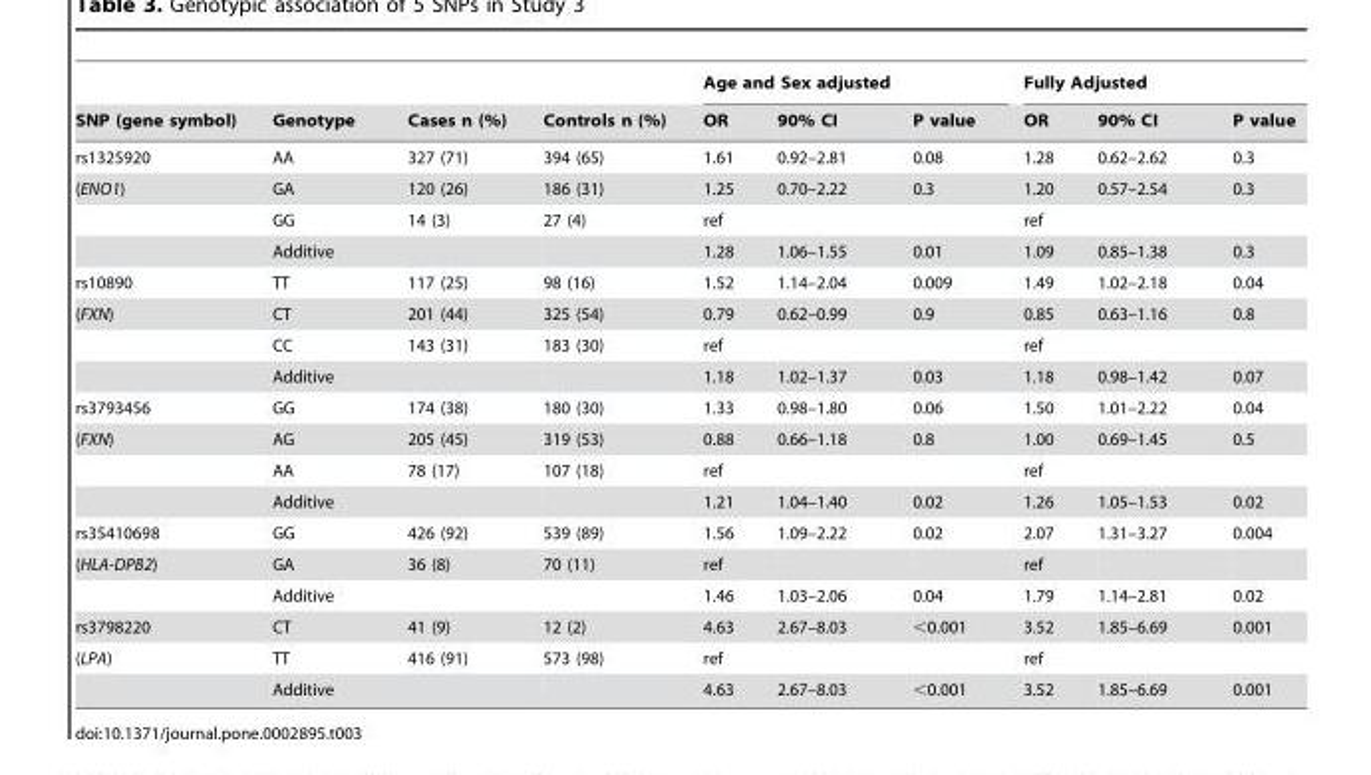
<table><thead><tr><td rowspan="2">SNP (gene symbol)</td><td rowspan="2">Genotype</td><td rowspan="2">Cases n (%)</td><td rowspan="2">Controls n (%)</td><td colspan="3">Age and Sex adjusted</td><td colspan="3">Fully Adjusted</td></tr><tr><td>OR</td><td>90% CI</td><td>P value</td><td>OR</td><td>90% CI</td><td>P value</td></tr></thead><tbody><tr><td>rs1325920</td><td>AA</td><td>327 (71)</td><td>394 (65)</td><td>1.61</td><td>0.92–2.81</td><td>0.08</td><td>1.28</td><td>0.62–2.62</td><td>0.3</td></tr><tr><td rowspan="3">(ENO1)</td><td>GA</td><td>120 (26)</td><td>186 (31)</td><td>1.25</td><td>0.70–2.22</td><td>0.3</td><td>1.20</td><td>0.57–2.54</td><td>0.3</td></tr><tr><td>GG</td><td>14 (3)</td><td>27 (4)</td><td>ref</td><td></td><td></td><td>ref</td><td></td><td></td></tr><tr><td colspan="2">Additive</td><td></td><td>1.28</td><td>1.06–1.55</td><td>0.01</td><td>1.09</td><td>0.85–1.38</td><td>0.3</td></tr><tr><td>rs10890</td><td>TT</td><td>117 (25)</td><td>98 (16)</td><td>1.52</td><td>1.14–2.04</td><td>0.009</td><td>1.49</td><td>1.02–2.18</td><td>0.04</td></tr><tr><td rowspan="3">(FXN)</td><td>CT</td><td>201 (44)</td><td>325 (54)</td><td>0.79</td><td>0.62–0.99</td><td>0.9</td><td>0.85</td><td>0.63–1.16</td><td>0.8</td></tr><tr><td>CC</td><td>143 (31)</td><td>183 (30)</td><td>ref</td><td></td><td></td><td>ref</td><td></td><td></td></tr><tr><td colspan="2">Additive</td><td></td><td>1.18</td><td>1.02–1.37</td><td>0.03</td><td>1.18</td><td>0.98–1.42</td><td>0.07</td></tr><tr><td>rs3793456</td><td>GG</td><td>174 (38)</td><td>180 (30)</td><td>1.33</td><td>0.98–1.80</td><td>0.06</td><td>1.50</td><td>1.01–2.22</td><td>0.04</td></tr><tr><td rowspan="3">(FXN)</td><td>AG</td><td>205 (45)</td><td>319 (53)</td><td>0.88</td><td>0.66–1.18</td><td>0.8</td><td>1.00</td><td>0.69–1.45</td><td>0.5</td></tr><tr><td>AA</td><td>78 (17)</td><td>107 (18)</td><td>ref</td><td></td><td></td><td>ref</td><td></td><td></td></tr><tr><td colspan="2">Additive</td><td></td><td>1.21</td><td>1.04–1.40</td><td>0.02</td><td>1.26</td><td>1.05–1.53</td><td>0.02</td></tr><tr><td>rs35410698</td><td>GG</td><td>426 (92)</td><td>539 (89)</td><td>1.56</td><td>1.09–2.22</td><td>0.02</td><td>2.07</td><td>1.31–3.27</td><td>0.004</td></tr><tr><td rowspan="2">(HLA-DPB2)</td><td>GA</td><td>36 (8)</td><td>70 (11)</td><td>ref</td><td></td><td></td><td>ref</td><td></td><td></td></tr><tr><td colspan="2">Additive</td><td></td><td>1.46</td><td>1.03–2.06</td><td>0.04</td><td>1.79</td><td>1.14–2.81</td><td>0.02</td></tr><tr><td>rs3798220</td><td>CT</td><td>41 (9)</td><td>12 (2)</td><td>4.63</td><td>2.67–8.03</td><td>&lt;0.001</td><td>3.52</td><td>1.85–6.69</td><td>0.001</td></tr><tr><td rowspan="2">(LPA)</td><td>TT</td><td>416 (91)</td><td>573 (98)</td><td>ref</td><td></td><td></td><td>ref</td><td></td><td></td></tr><tr><td colspan="2">Additive</td><td></td><td>4.63</td><td>2.67–8.03</td><td>&lt;0.001</td><td>3.52</td><td>1.85–6.69</td><td>0.001</td></tr></tbody></table>